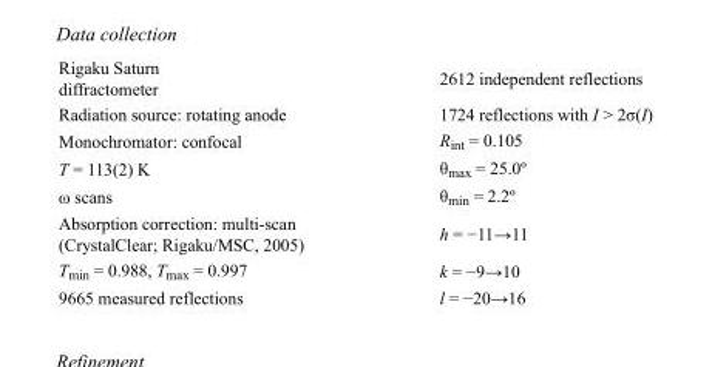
<table><tbody><tr><td>Rigaku Saturn diffractometer</td><td>2612 independent reflections</td></tr><tr><td>Radiation source: rotating anode</td><td>1724 reflections with I &gt; 2σ(I)</td></tr><tr><td>Monochromator: confocal</td><td>R<sub>int</sub> = 0.105</td></tr><tr><td>T = 113(2) K</td><td>θ<sub>max</sub> = 25.0º</td></tr><tr><td>ω scans</td><td>θ<sub>min</sub> = 2.2º</td></tr><tr><td>Absorption correction: multi-scan (CrystalClear; Rigaku/MSC, 2005)</td><td>h = −11→11</td></tr><tr><td>T<sub>min</sub> = 0.988, T<sub>max</sub> = 0.997</td><td>k = −9→10</td></tr><tr><td>9665 measured reflections</td><td>l = −20→16</td></tr></tbody></table>